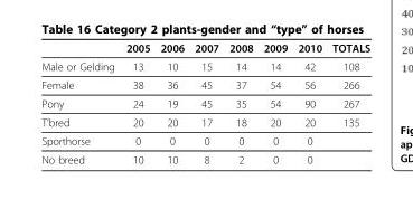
<table><thead><tr><td></td><td>2005</td><td>2006</td><td>2007</td><td>2008</td><td>2009</td><td>2010</td><td>TOTALS</td></tr></thead><tbody><tr><td>Male or Gelding</td><td>13</td><td>10</td><td>15</td><td>14</td><td>14</td><td>42</td><td>108</td></tr><tr><td>Female</td><td>38</td><td>36</td><td>45</td><td>37</td><td>54</td><td>56</td><td>266</td></tr><tr><td>Pony</td><td>24</td><td>19</td><td>45</td><td>35</td><td>54</td><td>90</td><td>267</td></tr><tr><td>T’bred</td><td>20</td><td>20</td><td>17</td><td>18</td><td>20</td><td>20</td><td>135</td></tr><tr><td>Sporthorse</td><td>0</td><td>0</td><td>0</td><td>0</td><td>0</td><td>0</td><td></td></tr><tr><td>No breed</td><td>10</td><td>10</td><td>8</td><td>2</td><td>0</td><td>0</td><td></td></tr></tbody></table>